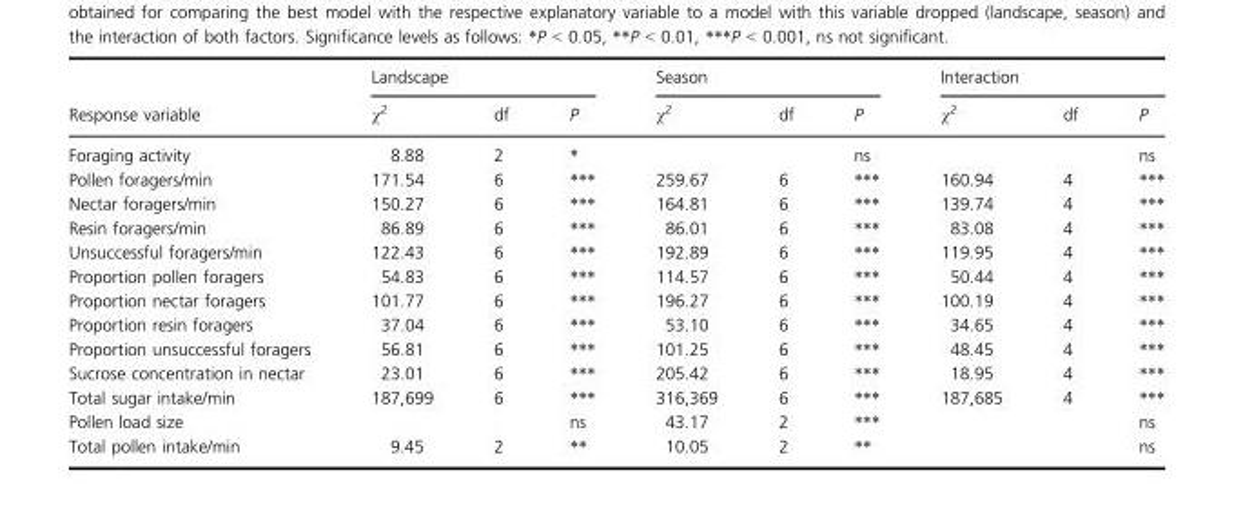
<table><thead><tr><td rowspan="2">Response variable</td><td colspan="3">Landscape</td><td colspan="3">Season</td><td colspan="3">Interaction</td></tr><tr><td>χ<sup>2</sup></td><td>df</td><td>P</td><td>χ<sup>2</sup></td><td>df</td><td>P</td><td>χ<sup>2</sup></td><td>df</td><td>P</td></tr></thead><tbody><tr><td>Foraging activity</td><td>8.88</td><td>2</td><td>*</td><td></td><td></td><td>ns</td><td></td><td></td><td>ns</td></tr><tr><td>Pollen foragers/min</td><td>171.54</td><td>6</td><td>***</td><td>259.67</td><td>6</td><td>***</td><td>160.94</td><td>4</td><td>***</td></tr><tr><td>Nectar foragers/min</td><td>150.27</td><td>6</td><td>***</td><td>164.81</td><td>6</td><td>***</td><td>139.74</td><td>4</td><td>***</td></tr><tr><td>Resin foragers/min</td><td>86.89</td><td>6</td><td>***</td><td>86.01</td><td>6</td><td>***</td><td>83.08</td><td>4</td><td>***</td></tr><tr><td>Unsuccessful foragers/min</td><td>122.43</td><td>6</td><td>***</td><td>192.89</td><td>6</td><td>***</td><td>119.95</td><td>4</td><td>***</td></tr><tr><td>Proportion pollen foragers</td><td>54.83</td><td>6</td><td>***</td><td>114.57</td><td>6</td><td>***</td><td>50.44</td><td>4</td><td>***</td></tr><tr><td>Proportion nectar foragers</td><td>101.77</td><td>6</td><td>***</td><td>196.27</td><td>6</td><td>***</td><td>100.19</td><td>4</td><td>***</td></tr><tr><td>Proportion resin foragers</td><td>37.04</td><td>6</td><td>***</td><td>53.10</td><td>6</td><td>***</td><td>34.65</td><td>4</td><td>***</td></tr><tr><td>Proportion unsuccessful foragers</td><td>56.81</td><td>6</td><td>***</td><td>101.25</td><td>6</td><td>***</td><td>48.45</td><td>4</td><td>***</td></tr><tr><td>Sucrose concentration in nectar</td><td>23.01</td><td>6</td><td>***</td><td>205.42</td><td>6</td><td>***</td><td>18.95</td><td>4</td><td>***</td></tr><tr><td>Total sugar intake/min</td><td>187,699</td><td>6</td><td>***</td><td>316,369</td><td>6</td><td>***</td><td>187,685</td><td>4</td><td>***</td></tr><tr><td>Pollen load size</td><td></td><td></td><td>ns</td><td>43.17</td><td>2</td><td>***</td><td></td><td></td><td>ns</td></tr><tr><td>Total pollen intake/min</td><td>9.45</td><td>2</td><td>**</td><td>10.05</td><td>2</td><td>**</td><td></td><td></td><td>ns</td></tr></tbody></table>